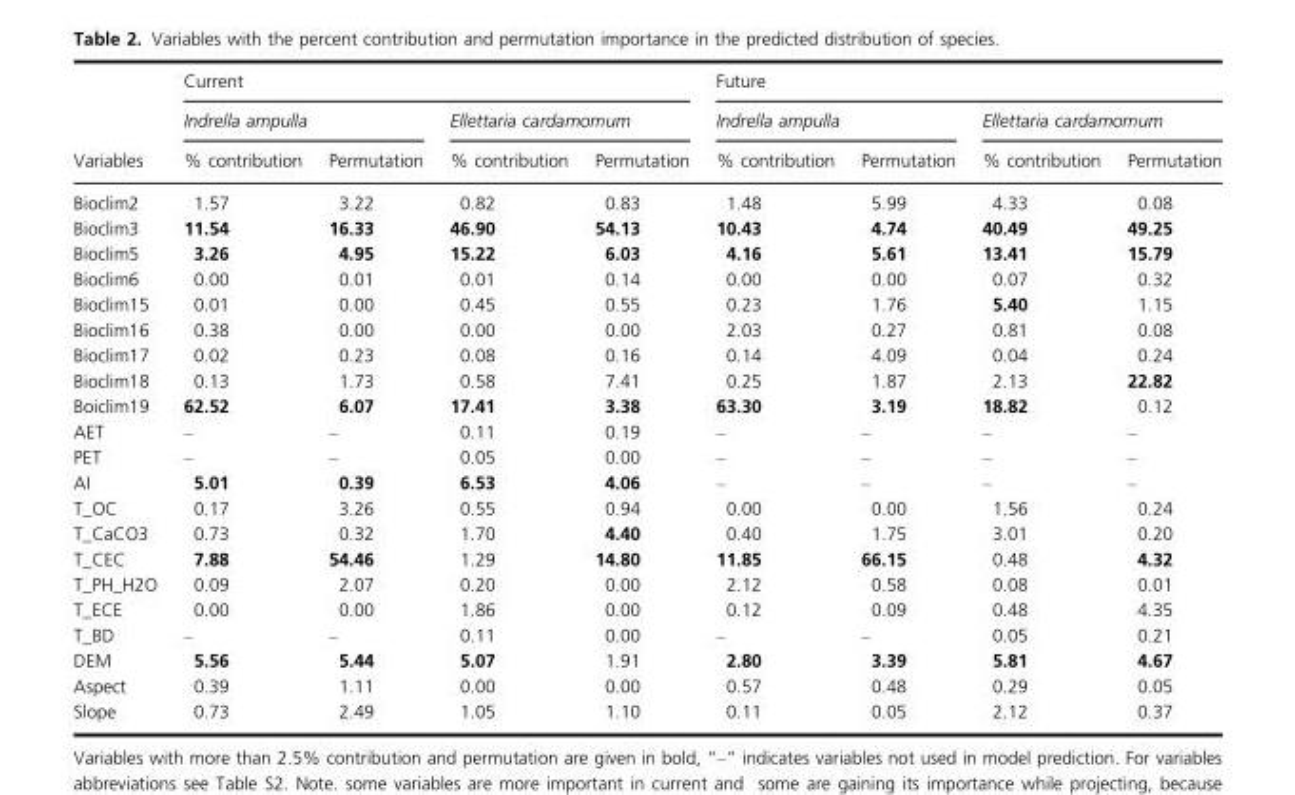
<table><thead><tr><td rowspan="3">Variables</td><td colspan="4">Current</td><td colspan="4">Future</td></tr><tr><td colspan="2">Indrella ampulla</td><td colspan="2">Ellettaria cardamomum</td><td colspan="2">Indrella ampulla</td><td colspan="2">Ellettaria cardamomum</td></tr><tr><td>% contribution</td><td>Permutation</td><td>% contribution</td><td>Permutation</td><td>% contribution</td><td>Permutation</td><td>% contribution</td><td>Permutation</td></tr></thead><tbody><tr><td>Bioclim2</td><td>1.57</td><td>3.22</td><td>0.82</td><td>0.83</td><td>1.48</td><td>5.99</td><td>4.33</td><td>0.08</td></tr><tr><td>Bioclim3</td><td>11.54</td><td>16.33</td><td>46.90</td><td>54.13</td><td>10.43</td><td>4.74</td><td>40.49</td><td>49.25</td></tr><tr><td>Bioclim5</td><td>3.26</td><td>4.95</td><td>15.22</td><td>6.03</td><td>4.16</td><td>5.61</td><td>13.41</td><td>15.79</td></tr><tr><td>Bioclim6</td><td>0.00</td><td>0.01</td><td>0.01</td><td>0.14</td><td>0.00</td><td>0.00</td><td>0.07</td><td>0.32</td></tr><tr><td>Bioclim15</td><td>0.01</td><td>0.00</td><td>0.45</td><td>0.55</td><td>0.23</td><td>1.76</td><td>5.40</td><td>1.15</td></tr><tr><td>Bioclim16</td><td>0.38</td><td>0.00</td><td>0.00</td><td>0.00</td><td>2.03</td><td>0.27</td><td>0.81</td><td>0.08</td></tr><tr><td>Bioclim17</td><td>0.02</td><td>0.23</td><td>0.08</td><td>0.16</td><td>0.14</td><td>4.09</td><td>0.04</td><td>0.24</td></tr><tr><td>Bioclim18</td><td>0.13</td><td>1.73</td><td>0.58</td><td>7.41</td><td>0.25</td><td>1.87</td><td>2.13</td><td>22.82</td></tr><tr><td>Boiclim19</td><td>62.52</td><td>6.07</td><td>17.41</td><td>3.38</td><td>63.30</td><td>3.19</td><td>18.82</td><td>0.12</td></tr><tr><td>AET</td><td>–</td><td>–</td><td>0.11</td><td>0.19</td><td>–</td><td>–</td><td>–</td><td>–</td></tr><tr><td>PET</td><td>–</td><td>–</td><td>0.05</td><td>0.00</td><td>–</td><td>–</td><td>–</td><td>–</td></tr><tr><td>AI</td><td>5.01</td><td>0.39</td><td>6.53</td><td>4.06</td><td>–</td><td>–</td><td>–</td><td>–</td></tr><tr><td>T_OC</td><td>0.17</td><td>3.26</td><td>0.55</td><td>0.94</td><td>0.00</td><td>0.00</td><td>1.56</td><td>0.24</td></tr><tr><td>T_CaCO3</td><td>0.73</td><td>0.32</td><td>1.70</td><td>4.40</td><td>0.40</td><td>1.75</td><td>3.01</td><td>0.20</td></tr><tr><td>T_CEC</td><td>7.88</td><td>54.46</td><td>1.29</td><td>14.80</td><td>11.85</td><td>66.15</td><td>0.48</td><td>4.32</td></tr><tr><td>T_PH_H2O</td><td>0.09</td><td>2.07</td><td>0.20</td><td>0.00</td><td>2.12</td><td>0.58</td><td>0.08</td><td>0.01</td></tr><tr><td>T_ECE</td><td>0.00</td><td>0.00</td><td>1.86</td><td>0.00</td><td>0.12</td><td>0.09</td><td>0.48</td><td>4.35</td></tr><tr><td>T_BD</td><td>–</td><td>–</td><td>0.11</td><td>0.00</td><td>–</td><td>–</td><td>0.05</td><td>0.21</td></tr><tr><td>DEM</td><td>5.56</td><td>5.44</td><td>5.07</td><td>1.91</td><td>2.80</td><td>3.39</td><td>5.81</td><td>4.67</td></tr><tr><td>Aspect</td><td>0.39</td><td>1.11</td><td>0.00</td><td>0.00</td><td>0.57</td><td>0.48</td><td>0.29</td><td>0.05</td></tr><tr><td>Slope</td><td>0.73</td><td>2.49</td><td>1.05</td><td>1.10</td><td>0.11</td><td>0.05</td><td>2.12</td><td>0.37</td></tr></tbody></table>